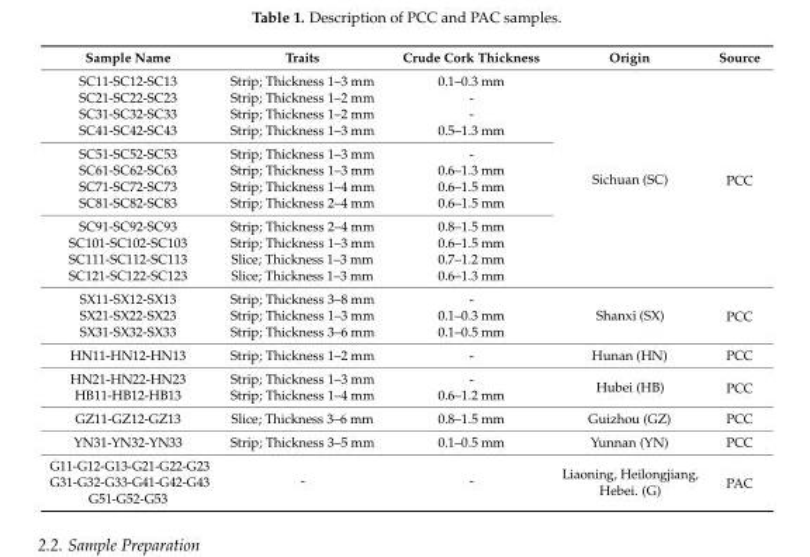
<table><thead><tr><td>Sample Name</td><td>Traits</td><td>Crude Cork Thickness</td><td>Origin</td><td>Source</td></tr></thead><tbody><tr><td>SC11-SC12-SC13</td><td>Strip; Thickness 1–3 mm</td><td>0.1–0.3 mm</td><td rowspan="12">Sichuan (SC)</td><td rowspan="12">PCC</td></tr><tr><td>SC21-SC22-SC23</td><td>Strip; Thickness 1–2 mm</td><td>-</td></tr><tr><td>SC31-SC32-SC33</td><td>Strip; Thickness 1–2 mm</td><td>-</td></tr><tr><td>SC41-SC42-SC43</td><td>Strip; Thickness 1–3 mm</td><td>0.5–1.3 mm</td></tr><tr><td>SC51-SC52-SC53</td><td>Strip; Thickness 1–3 mm</td><td>-</td></tr><tr><td>SC61-SC62-SC63</td><td>Strip; Thickness 1–3 mm</td><td>0.6–1.3 mm</td></tr><tr><td>SC71-SC72-SC73</td><td>Strip; Thickness 1–4 mm</td><td>0.6–1.5 mm</td></tr><tr><td>SC81-SC82-SC83</td><td>Strip; Thickness 2–4 mm</td><td>0.6–1.5 mm</td></tr><tr><td>SC91-SC92-SC93</td><td>Strip; Thickness 2–4 mm</td><td>0.8–1.5 mm</td></tr><tr><td>SC101-SC102-SC103</td><td>Strip; Thickness 1–3 mm</td><td>0.6–1.5 mm</td></tr><tr><td>SC111-SC112-SC113</td><td>Slice; Thickness 1–3 mm</td><td>0.7–1.2 mm</td></tr><tr><td>SC121-SC122-SC123</td><td>Slice; Thickness 1–3 mm</td><td>0.6–1.3 mm</td></tr><tr><td>SX11-SX12-SX13</td><td>Strip; Thickness 3–8 mm</td><td>-</td><td rowspan="3">Shanxi (SX)</td><td rowspan="3">PCC</td></tr><tr><td>SX21-SX22-SX23</td><td>Strip; Thickness 1–3 mm</td><td>0.1–0.3 mm</td></tr><tr><td>SX31-SX32-SX33</td><td>Strip; Thickness 3–6 mm</td><td>0.1–0.5 mm</td></tr><tr><td>HN11-HN12-HN13</td><td>Strip; Thickness 1–2 mm</td><td>-</td><td>Hunan (HN)</td><td>PCC</td></tr><tr><td>HN21-HN22-HN23</td><td>Strip; Thickness 1–3 mm</td><td>-</td><td rowspan="2">Hubei (HB)</td><td rowspan="2">PCC</td></tr><tr><td>HB11-HB12-HB13</td><td>Strip; Thickness 1–4 mm</td><td>0.6–1.2 mm</td></tr><tr><td>GZ11-GZ12-GZ13</td><td>Slice; Thickness 3–6 mm</td><td>0.8–1.5 mm</td><td>Guizhou (GZ)</td><td>PCC</td></tr><tr><td>YN31-YN32-YN33</td><td>Strip; Thickness 3–5 mm</td><td>0.1–0.5 mm</td><td>Yunnan (YN)</td><td>PCC</td></tr><tr><td>G11-G12-G13-G21-G22-G23</td><td rowspan="3">-</td><td rowspan="3">-</td><td rowspan="3">Liaoning, Heilongjiang, Hebei. (G)</td><td rowspan="3">PAC</td></tr><tr><td>G31-G32-G33-G41-G42-G43</td></tr><tr><td>G51-G52-G53</td></tr></tbody></table>